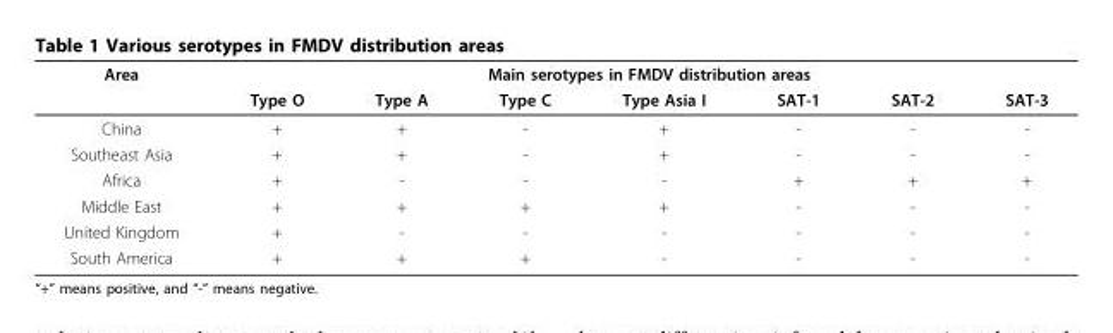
<table><thead><tr><td rowspan="2">Area</td><td colspan="7">Main serotypes in FMDV distribution areas</td></tr><tr><td>Type O</td><td>Type A</td><td>Type C</td><td>Type Asia I</td><td>SAT-1</td><td>SAT-2</td><td>SAT-3</td></tr></thead><tbody><tr><td>China</td><td>+</td><td>+</td><td>-</td><td>+</td><td>-</td><td>-</td><td>-</td></tr><tr><td>Southeast Asia</td><td>+</td><td>+</td><td>-</td><td>+</td><td>-</td><td>-</td><td>-</td></tr><tr><td>Africa</td><td>+</td><td>-</td><td>-</td><td>-</td><td>+</td><td>+</td><td>+</td></tr><tr><td>Middle East</td><td>+</td><td>+</td><td>+</td><td>+</td><td>-</td><td>-</td><td>-</td></tr><tr><td>United Kingdom</td><td>+</td><td>-</td><td>-</td><td>-</td><td>-</td><td>-</td><td>-</td></tr><tr><td>South America</td><td>+</td><td>+</td><td>+</td><td>-</td><td>-</td><td>-</td><td>-</td></tr></tbody></table>